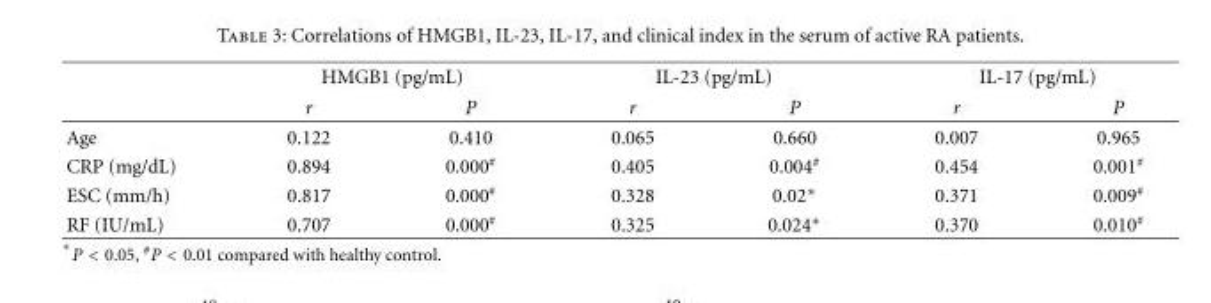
<table><thead><tr><td rowspan="2"></td><td colspan="2">HMGB1 (pg/mL)</td><td colspan="2">IL-23 (pg/mL)</td><td colspan="2">IL-17 (pg/mL)</td></tr><tr><td>r</td><td>P</td><td>r</td><td>P</td><td>r</td><td>P</td></tr></thead><tbody><tr><td>Age</td><td>0.122</td><td>0.410</td><td>0.065</td><td>0.660</td><td>0.007</td><td>0.965</td></tr><tr><td>CRP (mg/dL)</td><td>0.894</td><td>0.000<sup>#</sup></td><td>0.405</td><td>0.004<sup>#</sup></td><td>0.454</td><td>0.001<sup>#</sup></td></tr><tr><td>ESC (mm/h)</td><td>0.817</td><td>0.000<sup>#</sup></td><td>0.328</td><td>0.02∗</td><td>0.371</td><td>0.009<sup>#</sup></td></tr><tr><td>RF (IU/mL)</td><td>0.707</td><td>0.000<sup>#</sup></td><td>0.325</td><td>0.024∗</td><td>0.370</td><td>0.010<sup>#</sup></td></tr></tbody></table>